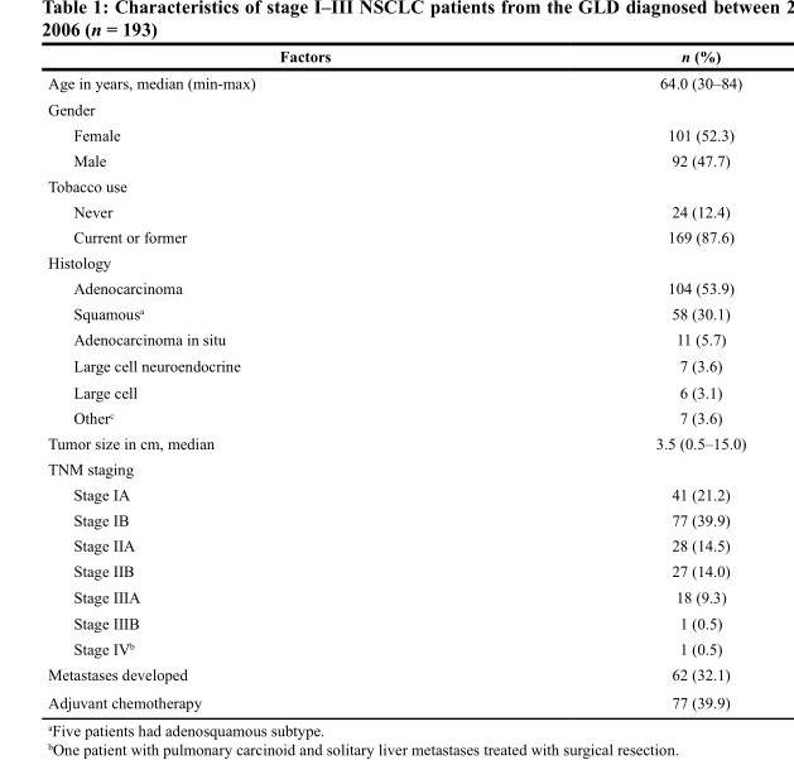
<table><thead><tr><td>Factors</td><td>n (%)</td></tr></thead><tbody><tr><td>Age in years, median (min-max)</td><td>64.0 (30–84)</td></tr><tr><td colspan="2">Gender</td></tr><tr><td>Female</td><td>101 (52.3)</td></tr><tr><td>Male</td><td>92 (47.7)</td></tr><tr><td colspan="2">Tobacco use</td></tr><tr><td>Never</td><td>24 (12.4)</td></tr><tr><td>Current or former</td><td>169 (87.6)</td></tr><tr><td colspan="2">Histology</td></tr><tr><td>Adenocarcinoma</td><td>104 (53.9)</td></tr><tr><td>Squamous<sup>a</sup></td><td>58 (30.1)</td></tr><tr><td>Adenocarcinoma in situ</td><td>11 (5.7)</td></tr><tr><td>Large cell neuroendocrine</td><td>7 (3.6)</td></tr><tr><td>Large cell</td><td>6 (3.1)</td></tr><tr><td>Other<sup>c</sup></td><td>7 (3.6)</td></tr><tr><td>Tumor size in cm, median</td><td>3.5 (0.5–15.0)</td></tr><tr><td colspan="2">TNM staging</td></tr><tr><td>Stage IA</td><td>41 (21.2)</td></tr><tr><td>Stage IB</td><td>77 (39.9)</td></tr><tr><td>Stage IIA</td><td>28 (14.5)</td></tr><tr><td>Stage IIB</td><td>27 (14.0)</td></tr><tr><td>Stage IIIA</td><td>18 (9.3)</td></tr><tr><td>Stage IIIB</td><td>1 (0.5)</td></tr><tr><td>Stage IV<sup>b</sup></td><td>1 (0.5)</td></tr><tr><td>Metastases developed</td><td>62 (32.1)</td></tr><tr><td>Adjuvant chemotherapy</td><td>77 (39.9)</td></tr></tbody></table>